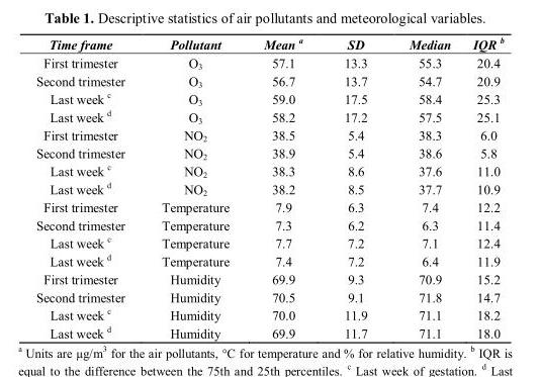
<table><thead><tr><td>Time frame</td><td>Pollutant</td><td>Mean <sup>a</sup></td><td>SD</td><td>Median</td><td>IQR <sup>b</sup></td></tr></thead><tbody><tr><td>First trimester</td><td>O<sub>3</sub></td><td>57.1</td><td>13.3</td><td>55.3</td><td>20.4</td></tr><tr><td>Second trimester</td><td>O<sub>3</sub></td><td>56.7</td><td>13.7</td><td>54.7</td><td>20.9</td></tr><tr><td>Last week <sup>c</sup></td><td>O<sub>3</sub></td><td>59.0</td><td>17.5</td><td>58.4</td><td>25.3</td></tr><tr><td>Last week <sup>d</sup></td><td>O<sub>3</sub></td><td>58.2</td><td>17.2</td><td>57.5</td><td>25.1</td></tr><tr><td>First trimester</td><td>NO<sub>2</sub></td><td>38.5</td><td>5.4</td><td>38.3</td><td>6.0</td></tr><tr><td>Second trimester</td><td>NO<sub>2</sub></td><td>38.9</td><td>5.4</td><td>38.6</td><td>5.8</td></tr><tr><td>Last week <sup>c</sup></td><td>NO<sub>2</sub></td><td>38.3</td><td>8.6</td><td>37.6</td><td>11.0</td></tr><tr><td>Last week <sup>d</sup></td><td>NO<sub>2</sub></td><td>38.2</td><td>8.5</td><td>37.7</td><td>10.9</td></tr><tr><td>First trimester</td><td>Temperature</td><td>7.9</td><td>6.3</td><td>7.4</td><td>12.2</td></tr><tr><td>Second trimester</td><td>Temperature</td><td>7.3</td><td>6.2</td><td>6.3</td><td>11.4</td></tr><tr><td>Last week <sup>c</sup></td><td>Temperature</td><td>7.7</td><td>7.2</td><td>7.1</td><td>12.4</td></tr><tr><td>Last week <sup>d</sup></td><td>Temperature</td><td>7.4</td><td>7.2</td><td>6.4</td><td>11.9</td></tr><tr><td>First trimester</td><td>Humidity</td><td>69.9</td><td>9.3</td><td>70.9</td><td>15.2</td></tr><tr><td>Second trimester</td><td>Humidity</td><td>70.5</td><td>9.1</td><td>71.8</td><td>14.7</td></tr><tr><td>Last week <sup>c</sup></td><td>Humidity</td><td>70.0</td><td>11.9</td><td>71.1</td><td>18.2</td></tr><tr><td>Last week <sup>d</sup></td><td>Humidity</td><td>69.9</td><td>11.7</td><td>71.1</td><td>18.0</td></tr></tbody></table>